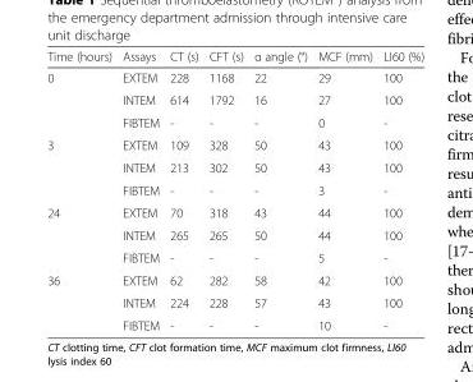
<table><thead><tr><td>Time (hours)</td><td>Assays</td><td>CT (s)</td><td>CFT (s)</td><td>α angle (°)</td><td>MCF (mm)</td><td>LI60 (%)</td></tr></thead><tbody><tr><td rowspan="3">0</td><td>EXTEM</td><td>228</td><td>1168</td><td>22</td><td>29</td><td>100</td></tr><tr><td>INTEM</td><td>614</td><td>1792</td><td>16</td><td>27</td><td>100</td></tr><tr><td>FIBTEM</td><td>-</td><td>-</td><td>-</td><td>0</td><td>-</td></tr><tr><td rowspan="3">3</td><td>EXTEM</td><td>109</td><td>328</td><td>50</td><td>43</td><td>100</td></tr><tr><td>INTEM</td><td>213</td><td>302</td><td>50</td><td>43</td><td>100</td></tr><tr><td>FIBTEM</td><td>-</td><td>-</td><td>-</td><td>3</td><td>-</td></tr><tr><td rowspan="3">24</td><td>EXTEM</td><td>70</td><td>318</td><td>43</td><td>44</td><td>100</td></tr><tr><td>INTEM</td><td>265</td><td>265</td><td>50</td><td>44</td><td>100</td></tr><tr><td>FIBTEM</td><td>-</td><td>-</td><td>-</td><td>5</td><td>-</td></tr><tr><td rowspan="3">36</td><td>EXTEM</td><td>62</td><td>282</td><td>58</td><td>42</td><td>100</td></tr><tr><td>INTEM</td><td>224</td><td>228</td><td>57</td><td>43</td><td>100</td></tr><tr><td>FIBTEM</td><td>-</td><td>-</td><td>-</td><td>10</td><td>-</td></tr></tbody></table>